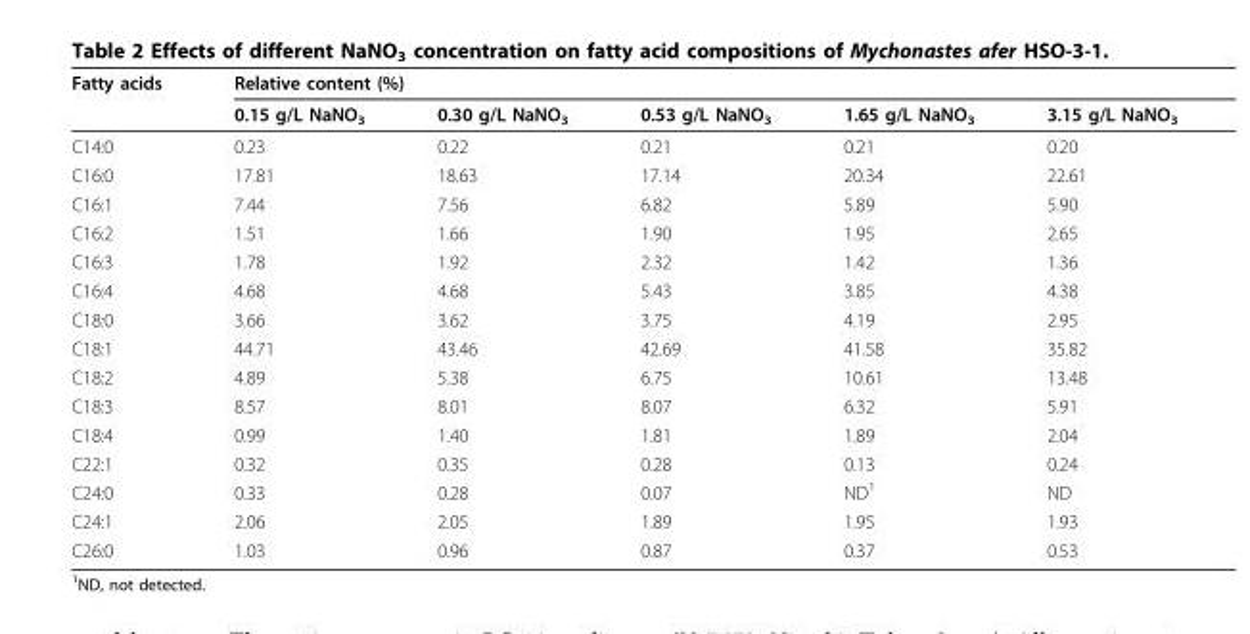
<table><thead><tr><td rowspan="2">Fatty acids</td><td colspan="5">Relative content (%)</td></tr><tr><td>0.15 g/L NaNO<sub>3</sub></td><td>0.30 g/L NaNO<sub>3</sub></td><td>0.53 g/L NaNO<sub>3</sub></td><td>1.65 g/L NaNO<sub>3</sub></td><td>3.15 g/L NaNO<sub>3</sub></td></tr></thead><tbody><tr><td>C14:0</td><td>0.23</td><td>0.22</td><td>0.21</td><td>0.21</td><td>0.20</td></tr><tr><td>C16:0</td><td>17.81</td><td>18.63</td><td>17.14</td><td>20.34</td><td>22.61</td></tr><tr><td>C16:1</td><td>7.44</td><td>7.56</td><td>6.82</td><td>5.89</td><td>5.90</td></tr><tr><td>C16:2</td><td>1.51</td><td>1.66</td><td>1.90</td><td>1.95</td><td>2.65</td></tr><tr><td>C16:3</td><td>1.78</td><td>1.92</td><td>2.32</td><td>1.42</td><td>1.36</td></tr><tr><td>C16:4</td><td>4.68</td><td>4.68</td><td>5.43</td><td>3.85</td><td>4.38</td></tr><tr><td>C18:0</td><td>3.66</td><td>3.62</td><td>3.75</td><td>4.19</td><td>2.95</td></tr><tr><td>C18:1</td><td>44.71</td><td>43.46</td><td>42.69</td><td>41.58</td><td>35.82</td></tr><tr><td>C18:2</td><td>4.89</td><td>5.38</td><td>6.75</td><td>10.61</td><td>13.48</td></tr><tr><td>C18:3</td><td>8.57</td><td>8.01</td><td>8.07</td><td>6.32</td><td>5.91</td></tr><tr><td>C18:4</td><td>0.99</td><td>1.40</td><td>1.81</td><td>1.89</td><td>2.04</td></tr><tr><td>C22:1</td><td>0.32</td><td>0.35</td><td>0.28</td><td>0.13</td><td>0.24</td></tr><tr><td>C24:0</td><td>0.33</td><td>0.28</td><td>0.07</td><td>ND<sup>1</sup></td><td>ND</td></tr><tr><td>C24:1</td><td>2.06</td><td>2.05</td><td>1.89</td><td>1.95</td><td>1.93</td></tr><tr><td>C26:0</td><td>1.03</td><td>0.96</td><td>0.87</td><td>0.37</td><td>0.53</td></tr></tbody></table>